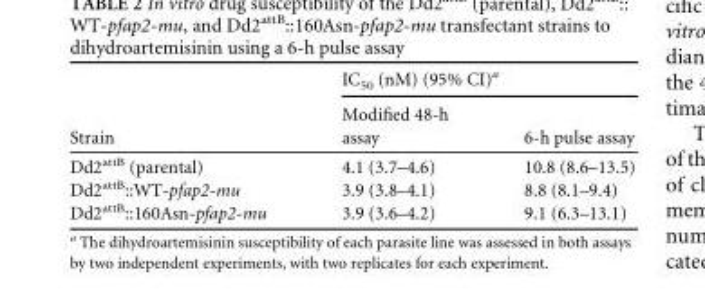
<table><thead><tr><td rowspan="2">Strain</td><td colspan="2">IC<sub>50</sub> (nM) (95% CI)<sup>a</sup></td></tr><tr><td>Modified 48-h assay</td><td>6-h pulse assay</td></tr></thead><tbody><tr><td>Dd2<sup>attB</sup> (parental)</td><td>4.1 (3.7–4.6)</td><td>10.8 (8.6–13.5)</td></tr><tr><td>Dd2<sup>attB</sup>::WT-pfap2-mu</td><td>3.9 (3.8–4.1)</td><td>8.8 (8.1–9.4)</td></tr><tr><td>Dd2<sup>attB</sup>::160Asn-pfap2-mu</td><td>3.9 (3.6–4.2)</td><td>9.1 (6.3–13.1)</td></tr></tbody></table>